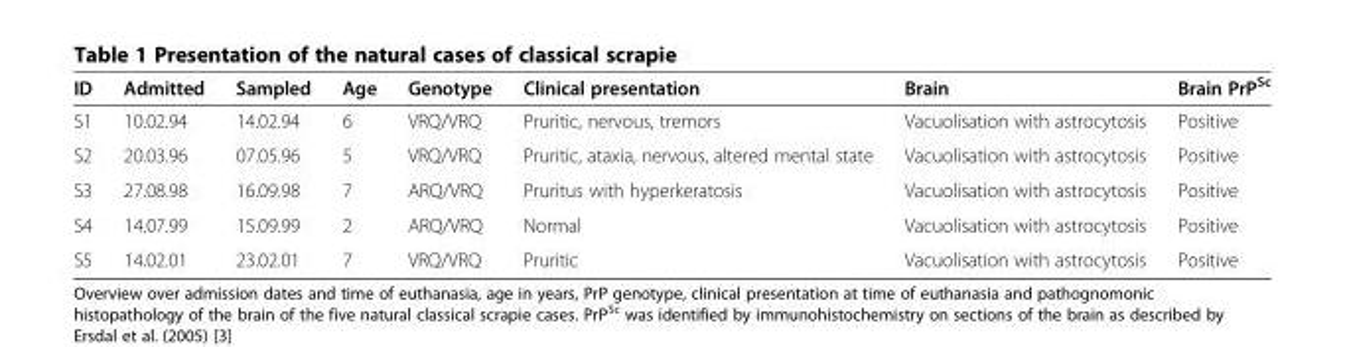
<table><thead><tr><td>ID</td><td>Admitted</td><td>Sampled</td><td>Age</td><td>Genotype</td><td>Clinical presentation</td><td>Brain</td><td>Brain PrP<sup>Sc</sup></td></tr></thead><tbody><tr><td>S1</td><td>10.02.94</td><td>14.02.94</td><td>6</td><td>VRQ/VRQ</td><td>Pruritic, nervous, tremors</td><td>Vacuolisation with astrocytosis</td><td>Positive</td></tr><tr><td>S2</td><td>20.03.96</td><td>07.05.96</td><td>5</td><td>VRQ/VRQ</td><td>Pruritic, ataxia, nervous, altered mental state</td><td>Vacuolisation with astrocytosis</td><td>Positive</td></tr><tr><td>S3</td><td>27.08.98</td><td>16.09.98</td><td>7</td><td>ARQ/VRQ</td><td>Pruritus with hyperkeratosis</td><td>Vacuolisation with astrocytosis</td><td>Positive</td></tr><tr><td>S4</td><td>14.07.99</td><td>15.09.99</td><td>2</td><td>ARQ/VRQ</td><td>Normal</td><td>Vacuolisation with astrocytosis</td><td>Positive</td></tr><tr><td>S5</td><td>14.02.01</td><td>23.02.01</td><td>7</td><td>VRQ/VRQ</td><td>Pruritic</td><td>Vacuolisation with astrocytosis</td><td>Positive</td></tr></tbody></table>